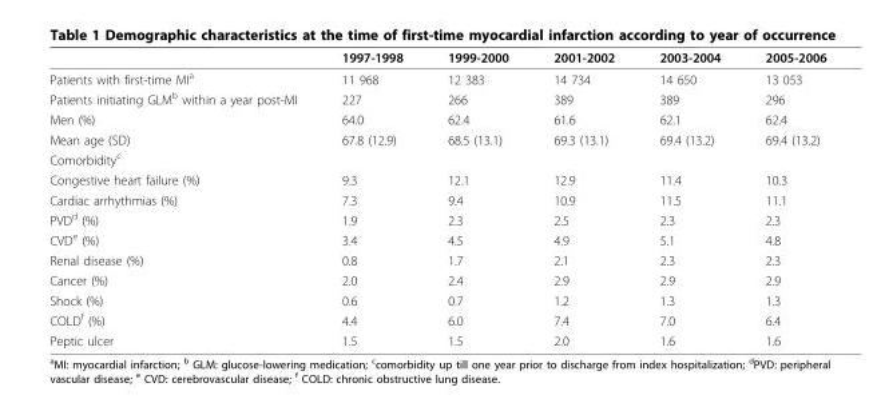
<table><thead><tr><td></td><td>1997-1998</td><td>1999-2000</td><td>2001-2002</td><td>2003-2004</td><td>2005-2006</td></tr></thead><tbody><tr><td>Patients with first-time MI<sup>a</sup></td><td>11 968</td><td>12 383</td><td>14 734</td><td>14 650</td><td>13 053</td></tr><tr><td>Patients initiating GLM<sup>b</sup> within a year post-MI</td><td>227</td><td>266</td><td>389</td><td>389</td><td>296</td></tr><tr><td>Men (%)</td><td>64.0</td><td>62.4</td><td>61.6</td><td>62.1</td><td>62.4</td></tr><tr><td>Mean age (SD)</td><td>67.8 (12.9)</td><td>68.5 (13.1)</td><td>69.3 (13.1)</td><td>69.4 (13.2)</td><td>69.4 (13.2)</td></tr><tr><td colspan="6">Comorbidity<sup>c</sup></td></tr><tr><td>Congestive heart failure (%)</td><td>9.3</td><td>12.1</td><td>12.9</td><td>11.4</td><td>10.3</td></tr><tr><td>Cardiac arrhythmias (%)</td><td>7.3</td><td>9.4</td><td>10.9</td><td>11.5</td><td>11.1</td></tr><tr><td>PVD<sup>d</sup> (%)</td><td>1.9</td><td>2.3</td><td>2.5</td><td>2.3</td><td>2.3</td></tr><tr><td>CVD<sup>e</sup> (%)</td><td>3.4</td><td>4.5</td><td>4.9</td><td>5.1</td><td>4.8</td></tr><tr><td>Renal disease (%)</td><td>0.8</td><td>1.7</td><td>2.1</td><td>2.3</td><td>2.3</td></tr><tr><td>Cancer (%)</td><td>2.0</td><td>2.4</td><td>2.9</td><td>2.9</td><td>2.9</td></tr><tr><td>Shock (%)</td><td>0.6</td><td>0.7</td><td>1.2</td><td>1.3</td><td>1.3</td></tr><tr><td>COLD<sup>f</sup> (%)</td><td>4.4</td><td>6.0</td><td>7.4</td><td>7.0</td><td>6.4</td></tr><tr><td>Peptic ulcer</td><td>1.5</td><td>1.5</td><td>2.0</td><td>1.6</td><td>1.6</td></tr></tbody></table>